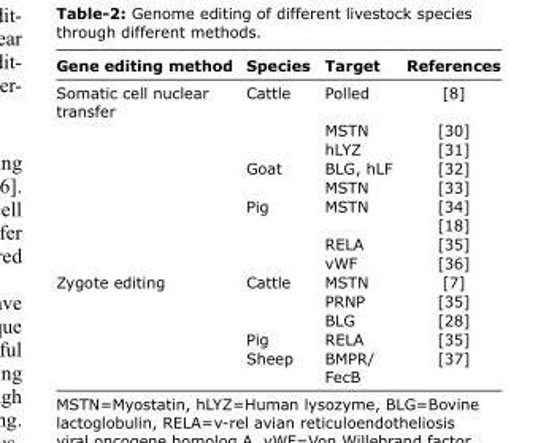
<table><thead><tr><td>Gene editing method</td><td>Species</td><td>Target</td><td>References</td></tr></thead><tbody><tr><td rowspan="8">Somatic cell nuclear transfer</td><td>Cattle</td><td>Polled</td><td>[8]</td></tr><tr><td></td><td>MSTN</td><td>[30]</td></tr><tr><td></td><td>hLYZ</td><td>[31]</td></tr><tr><td>Goat</td><td>BLG, hLF</td><td>[32]</td></tr><tr><td></td><td>MSTN</td><td>[33]</td></tr><tr><td>Pig</td><td>MSTN</td><td>[34] [18]</td></tr><tr><td></td><td>RELA</td><td>[35]</td></tr><tr><td></td><td>vWF</td><td>[36]</td></tr><tr><td rowspan="5">Zygote editing</td><td>Cattle</td><td>MSTN</td><td>[7]</td></tr><tr><td></td><td>PRNP</td><td>[35]</td></tr><tr><td></td><td>BLG</td><td>[28]</td></tr><tr><td>Pig</td><td>RELA</td><td>[35]</td></tr><tr><td>Sheep</td><td>BMPR/ FecB</td><td>[37]</td></tr></tbody></table>